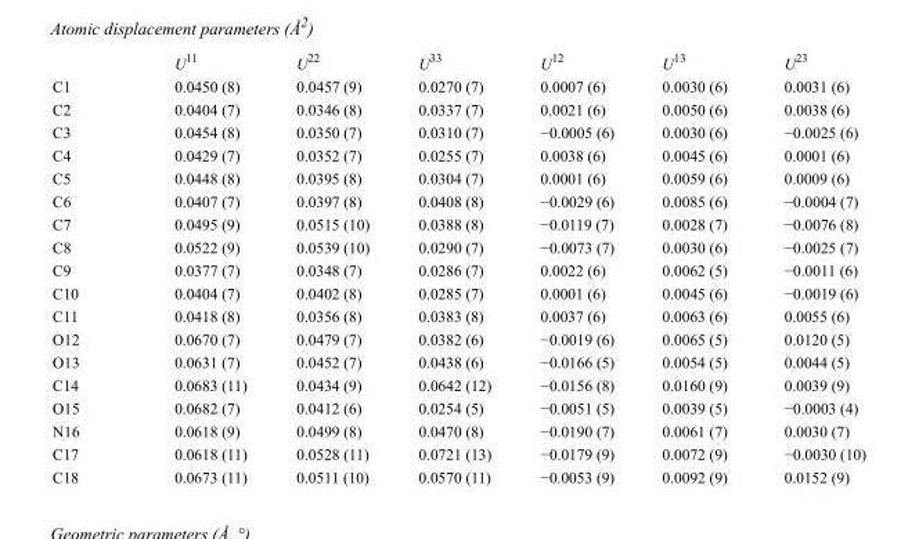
<table><thead><tr><td></td><td>U<sup>11</sup></td><td>U<sup>22</sup></td><td>U<sup>33</sup></td><td>U<sup>12</sup></td><td>U<sup>13</sup></td><td>U<sup>23</sup></td></tr></thead><tbody><tr><td>C1</td><td>0.0450 (8)</td><td>0.0457 (9)</td><td>0.0270 (7)</td><td>0.0007 (6)</td><td>0.0030 (6)</td><td>0.0031 (6)</td></tr><tr><td>C2</td><td>0.0404 (7)</td><td>0.0346 (8)</td><td>0.0337 (7)</td><td>0.0021 (6)</td><td>0.0050 (6)</td><td>0.0038 (6)</td></tr><tr><td>C3</td><td>0.0454 (8)</td><td>0.0350 (7)</td><td>0.0310 (7)</td><td>−0.0005 (6)</td><td>0.0030 (6)</td><td>−0.0025 (6)</td></tr><tr><td>C4</td><td>0.0429 (7)</td><td>0.0352 (7)</td><td>0.0255 (7)</td><td>0.0038 (6)</td><td>0.0045 (6)</td><td>0.0001 (6)</td></tr><tr><td>C5</td><td>0.0448 (8)</td><td>0.0395 (8)</td><td>0.0304 (7)</td><td>0.0001 (6)</td><td>0.0059 (6)</td><td>0.0009 (6)</td></tr><tr><td>C6</td><td>0.0407 (7)</td><td>0.0397 (8)</td><td>0.0408 (8)</td><td>−0.0029 (6)</td><td>0.0085 (6)</td><td>−0.0004 (7)</td></tr><tr><td>C7</td><td>0.0495 (9)</td><td>0.0515 (10)</td><td>0.0388 (8)</td><td>−0.0119 (7)</td><td>0.0028 (7)</td><td>−0.0076 (8)</td></tr><tr><td>C8</td><td>0.0522 (9)</td><td>0.0539 (10)</td><td>0.0290 (7)</td><td>−0.0073 (7)</td><td>0.0030 (6)</td><td>−0.0025 (7)</td></tr><tr><td>C9</td><td>0.0377 (7)</td><td>0.0348 (7)</td><td>0.0286 (7)</td><td>0.0022 (6)</td><td>0.0062 (5)</td><td>−0.0011 (6)</td></tr><tr><td>C10</td><td>0.0404 (7)</td><td>0.0402 (8)</td><td>0.0285 (7)</td><td>0.0001 (6)</td><td>0.0045 (6)</td><td>−0.0019 (6)</td></tr><tr><td>C11</td><td>0.0418 (8)</td><td>0.0356 (8)</td><td>0.0383 (8)</td><td>0.0037 (6)</td><td>0.0063 (6)</td><td>0.0055 (6)</td></tr><tr><td>O12</td><td>0.0670 (7)</td><td>0.0479 (7)</td><td>0.0382 (6)</td><td>−0.0019 (6)</td><td>0.0065 (5)</td><td>0.0120 (5)</td></tr><tr><td>O13</td><td>0.0631 (7)</td><td>0.0452 (7)</td><td>0.0438 (6)</td><td>−0.0166 (5)</td><td>0.0054 (5)</td><td>0.0044 (5)</td></tr><tr><td>C14</td><td>0.0683 (11)</td><td>0.0434 (9)</td><td>0.0642 (12)</td><td>−0.0156 (8)</td><td>0.0160 (9)</td><td>0.0039 (9)</td></tr><tr><td>O15</td><td>0.0682 (7)</td><td>0.0412 (6)</td><td>0.0254 (5)</td><td>−0.0051 (5)</td><td>0.0039 (5)</td><td>−0.0003 (4)</td></tr><tr><td>N16</td><td>0.0618 (9)</td><td>0.0499 (8)</td><td>0.0470 (8)</td><td>−0.0190 (7)</td><td>0.0061 (7)</td><td>0.0030 (7)</td></tr><tr><td>C17</td><td>0.0618 (11)</td><td>0.0528 (11)</td><td>0.0721 (13)</td><td>−0.0179 (9)</td><td>0.0072 (9)</td><td>−0.0030 (10)</td></tr><tr><td>C18</td><td>0.0673 (11)</td><td>0.0511 (10)</td><td>0.0570 (11)</td><td>−0.0053 (9)</td><td>0.0092 (9)</td><td>0.0152 (9)</td></tr></tbody></table>